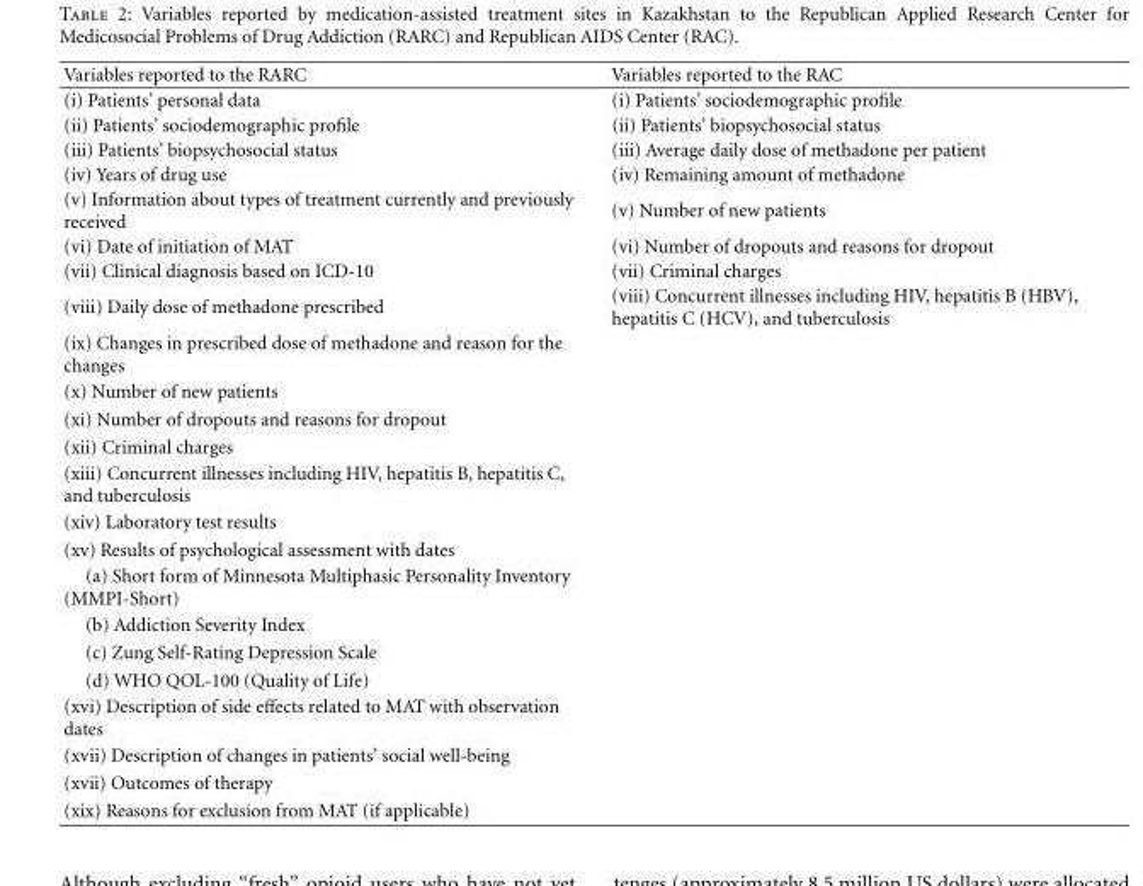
<table><thead><tr><td>Variables reported to the RARC</td><td>Variables reported to the RAC</td></tr></thead><tbody><tr><td>(i) Patients’ personal data</td><td>(i) Patients’ sociodemographic profile</td></tr><tr><td>(ii) Patients’ sociodemographic profile</td><td>(ii) Patients’ biopsychosocial status</td></tr><tr><td>(iii) Patients’ biopsychosocial status</td><td>(iii) Average daily dose of methadone per patient</td></tr><tr><td>(iv) Years of drug use</td><td>(iv) Remaining amount of methadone</td></tr><tr><td>(v) Information about types of treatment currently and previously received</td><td>(v) Number of new patients</td></tr><tr><td>(vi) Date of initiation of MAT</td><td>(vi) Number of dropouts and reasons for dropout</td></tr><tr><td>(vii) Clinical diagnosis based on ICD-10</td><td>(vii) Criminal charges</td></tr><tr><td>(viii) Daily dose of methadone prescribed</td><td>(viii) Concurrent illnesses including HIV, hepatitis B (HBV), hepatitis C (HCV), and tuberculosis</td></tr><tr><td colspan="2">(ix) Changes in prescribed dose of methadone and reason for the changes</td></tr><tr><td colspan="2">(x) Number of new patients</td></tr><tr><td colspan="2">(xi) Number of dropouts and reasons for dropout</td></tr><tr><td colspan="2">(xii) Criminal charges</td></tr><tr><td colspan="2">(xiii) Concurrent illnesses including HIV, hepatitis B, hepatitis C, and tuberculosis</td></tr><tr><td colspan="2">(xiv) Laboratory test results</td></tr><tr><td colspan="2">(xv) Results of psychological assessment with dates</td></tr><tr><td colspan="2">(a) Short form of Minnesota Multiphasic Personality Inventory (MMPI-Short)</td></tr><tr><td colspan="2">(b) Addiction Severity Index</td></tr><tr><td colspan="2">(c) Zung Self-Rating Depression Scale</td></tr><tr><td colspan="2">(d) WHO QOL-100 (Quality of Life)</td></tr><tr><td colspan="2">(xvi) Description of side effects related to MAT with observation dates</td></tr><tr><td colspan="2">(xvii) Description of changes in patients’ social well-being</td></tr><tr><td colspan="2">(xvii) Outcomes of therapy</td></tr><tr><td>(xix) Reasons for exclusion from MAT (if applicable)</td><td></td></tr></tbody></table>